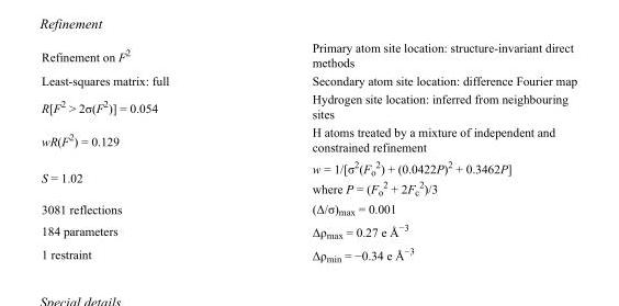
<table><tbody><tr><td>Refinement on F<sup>2</sup></td><td>Primary atom site location: structure-invariant direct methods</td></tr><tr><td>Least-squares matrix: full</td><td>Secondary atom site location: difference Fourier map</td></tr><tr><td>R[F<sup>2</sup> &gt; 2σ(F<sup>2</sup>)] = 0.054</td><td>Hydrogen site location: inferred from neighbouring sites</td></tr><tr><td>wR(F<sup>2</sup>) = 0.129</td><td>H atoms treated by a mixture of independent and constrained refinement</td></tr><tr><td>S = 1.02</td><td>w = 1/[σ<sup>2</sup>(F<sub>o</sub> <sup>2</sup>) + (0.0422P)<sup>2</sup> + 0.3462P] where P = (F<sub>o</sub> <sup>2</sup> + 2F<sub>c</sub> <sup>2</sup>)/3</td></tr><tr><td>3081 reflections</td><td>(Δ/σ)<sub>max</sub> = 0.001</td></tr><tr><td>184 parameters</td><td>Δρ<sub>max</sub> = 0.27 e Å<sup>−3</sup></td></tr><tr><td>1 restraint</td><td>Δρ<sub>min</sub> = −0.34 e Å<sup>−3</sup></td></tr></tbody></table>